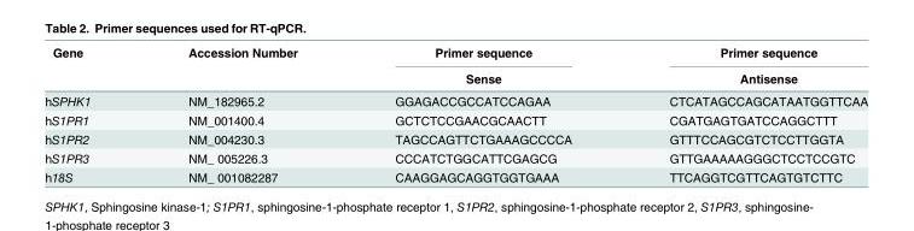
<table><thead><tr><td rowspan="2">Gene</td><td rowspan="2">Accession Number</td><td rowspan="2">Primer sequence Sense</td><td rowspan="2">Primer sequence Antisense</td></tr><tr></tr></thead><tbody><tr><td>hSPHK1</td><td>NM_182965.2</td><td>GGAGACCGCCATCCAGAA</td><td>CTCATAGCCAGCATAATGGTTCAA</td></tr><tr><td>hS1PR1</td><td>NM_001400.4</td><td>GCTCTCCGAACGCAACTT</td><td>CGATGAGTGATCCAGGCTTT</td></tr><tr><td>hS1PR2</td><td>NM_004230.3</td><td>TAGCCAGTTCTGAAAGCCCCA</td><td>GTTTCCAGCGTCTCCTTGGTA</td></tr><tr><td>hS1PR3</td><td>NM_ 005226.3</td><td>CCCATCTGGCATTCGAGCG</td><td>GTTGAAAAAGGGCTCCTCCGTC</td></tr><tr><td>h18S</td><td>NM_ 001082287</td><td>CAAGGAGCAGGTGGTGAAA</td><td>TTCAGGTCGTTCAGTGTCTTC</td></tr></tbody></table>